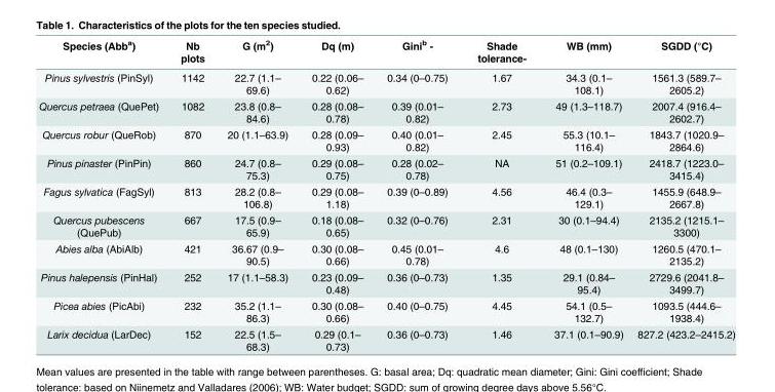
<table><thead><tr><td>Species (Abb<sup>a</sup>)</td><td>Nb plots</td><td>G (m<sup>2</sup>)</td><td>Dq (m)</td><td>Gini<sup>b</sup> -</td><td>Shade tolerance-</td><td>WB (mm)</td><td>SGDD (°C)</td></tr></thead><tbody><tr><td>Pinus sylvestris (PinSyl)</td><td>1142</td><td>22.7 (1.1– 69.6)</td><td>0.22 (0.06– 0.62)</td><td>0.34 (0–0.75)</td><td>1.67</td><td>34.3 (0.1– 108.1)</td><td>1561.3 (589.7– 2605.2)</td></tr><tr><td>Quercus petraea (QuePet)</td><td>1082</td><td>23.8 (0.8– 84.6)</td><td>0.28 (0.08– 0.78)</td><td>0.39 (0.01– 0.82)</td><td>2.73</td><td>49 (1.3–118.7)</td><td>2007.4 (916.4– 2602.7)</td></tr><tr><td>Quercus robur (QueRob)</td><td>870</td><td>20 (1.1–63.9)</td><td>0.28 (0.09– 0.93)</td><td>0.40 (0.01– 0.82)</td><td>2.45</td><td>55.3 (10.1– 116.4)</td><td>1843.7 (1020.9– 2864.6)</td></tr><tr><td>Pinus pinaster (PinPin)</td><td>860</td><td>24.7 (0.8– 75.3)</td><td>0.29 (0.08– 0.75)</td><td>0.28 (0.02– 0.78)</td><td>NA</td><td>51 (0.2–109.1)</td><td>2418.7 (1223.0– 3415.4)</td></tr><tr><td>Fagus sylvatica (FagSyl)</td><td>813</td><td>28.2 (0.8– 106.8)</td><td>0.29 (0.08– 1.18)</td><td>0.39 (0–0.89)</td><td>4.56</td><td>46.4 (0.3– 129.1)</td><td>1455.9 (648.9– 2667.8)</td></tr><tr><td>Quercus pubescens (QuePub)</td><td>667</td><td>17.5 (0.9– 65.9)</td><td>0.18 (0.08– 0.65)</td><td>0.32 (0–0.76)</td><td>2.31</td><td>30 (0.1–94.4)</td><td>2135.2 (1215.1– 3300)</td></tr><tr><td>Abies alba (AbiAlb)</td><td>421</td><td>36.67 (0.9– 90.5)</td><td>0.30 (0.08– 0.66)</td><td>0.45 (0.01– 0.78)</td><td>4.6</td><td>48 (0.1–130)</td><td>1260.5 (470.1– 2135.2)</td></tr><tr><td>Pinus halepensis (PinHal)</td><td>252</td><td>17 (1.1–58.3)</td><td>0.23 (0.09– 0.48)</td><td>0.36 (0–0.73)</td><td>1.35</td><td>29.1 (0.84– 95.4)</td><td>2729.6 (2041.8– 3499.7)</td></tr><tr><td>Picea abies (PicAbi)</td><td>232</td><td>35.2 (1.1– 86.3)</td><td>0.30 (0.08– 0.66)</td><td>0.40 (0–0.75)</td><td>4.45</td><td>54.1 (0.5– 132.7)</td><td>1093.5 (444.6– 1938.4)</td></tr><tr><td>Larix decidua (LarDec)</td><td>152</td><td>22.5 (1.5– 68.3)</td><td>0.29 (0.1– 0.73)</td><td>0.36 (0–0.73)</td><td>1.46</td><td>37.1 (0.1–90.9)</td><td>827.2 (423.2–2415.2)</td></tr></tbody></table>